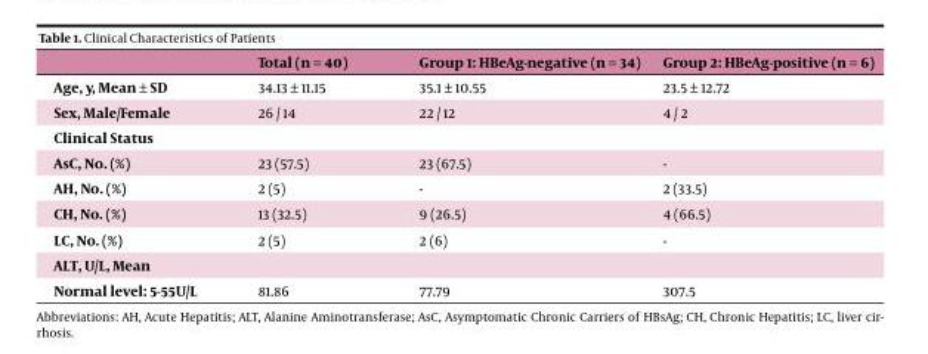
<table><thead><tr><td></td><td>Total (n = 40)</td><td>Group 1: HBeAg-negative (n = 34)</td><td>Group 2: HBeAg-positive (n = 6)</td></tr></thead><tbody><tr><td>Age, y, Mean ± SD</td><td>34.13 ± 11.15</td><td>35.1 ± 10.55</td><td>23.5 ± 12.72</td></tr><tr><td>Sex, Male/Female</td><td>26 / 14</td><td>22 / 12</td><td>4 / 2</td></tr><tr><td colspan="4">Clinical Status</td></tr><tr><td>AsC, No. (%)</td><td>23 (57.5)</td><td>23 (67.5)</td><td>-</td></tr><tr><td>AH, No. (%)</td><td>2 (5)</td><td>-</td><td>2 (33.5)</td></tr><tr><td>CH, No. (%)</td><td>13 (32.5)</td><td>9 (26.5)</td><td>4 (66.5)</td></tr><tr><td>LC, No. (%)</td><td>2 (5)</td><td>2 (6)</td><td>-</td></tr><tr><td colspan="4">ALT, U/L, Mean</td></tr><tr><td>Normal level: 5-55U/L</td><td>81.86</td><td>77.79</td><td>307.5</td></tr></tbody></table>